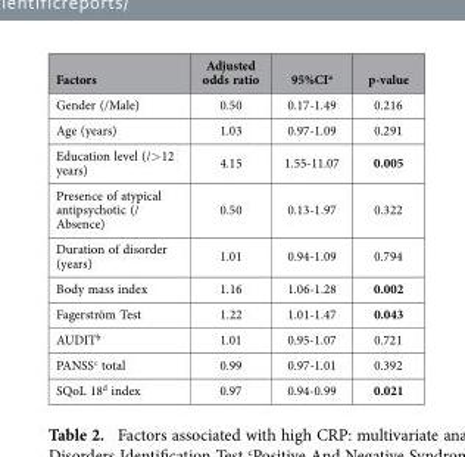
<table><thead><tr><td>Factors</td><td>Adjusted odds ratio</td><td>95%CI<sup>a</sup></td><td>p-value</td></tr></thead><tbody><tr><td>Gender (/Male)</td><td>0.50</td><td>0.17-1.49</td><td>0.216</td></tr><tr><td>Age (years)</td><td>1.03</td><td>0.97-1.09</td><td>0.291</td></tr><tr><td>Education level (/&gt; 12 years)</td><td>4.15</td><td>1.55-11.07</td><td>0.005</td></tr><tr><td>Presence of atypical antipsychotic (/ Absence)</td><td>0.50</td><td>0.13-1.97</td><td>0.322</td></tr><tr><td>Duration of disorder (years)</td><td>1.01</td><td>0.94-1.09</td><td>0.794</td></tr><tr><td>Body mass index</td><td>1.16</td><td>1.06-1.28</td><td>0.002</td></tr><tr><td>Fagerström Test</td><td>1.22</td><td>1.01-1.47</td><td>0.043</td></tr><tr><td>AUDIT<sup>b</sup></td><td>1.01</td><td>0.95-1.07</td><td>0.721</td></tr><tr><td>PANSS<sup>c</sup> total</td><td>0.99</td><td>0.97-1.01</td><td>0.392</td></tr><tr><td>SQoL 18<sup>d</sup> index</td><td>0.97</td><td>0.94-0.99</td><td>0.021</td></tr></tbody></table>